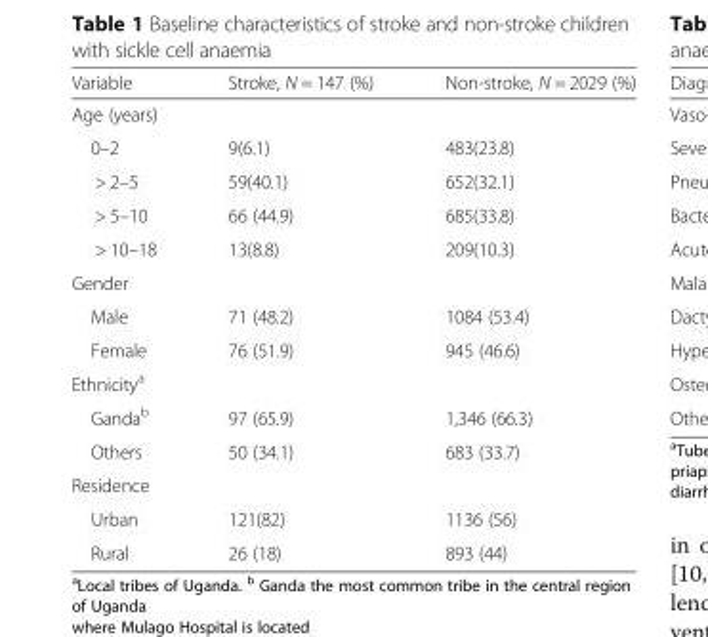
<table><thead><tr><td>Variable</td><td>Stroke, N = 147 (%)</td><td>Non-stroke, N = 2029 (%)</td></tr></thead><tbody><tr><td colspan="3">Age (years)</td></tr><tr><td>0–2</td><td>9(6.1)</td><td>483(23.8)</td></tr><tr><td>&gt; 2–5</td><td>59(40.1)</td><td>652(32.1)</td></tr><tr><td>&gt; 5–10</td><td>66 (44.9)</td><td>685(33.8)</td></tr><tr><td>&gt; 10–18</td><td>13(8.8)</td><td>209(10.3)</td></tr><tr><td colspan="3">Gender</td></tr><tr><td>Male</td><td>71 (48.2)</td><td>1084 (53.4)</td></tr><tr><td>Female</td><td>76 (51.9)</td><td>945 (46.6)</td></tr><tr><td colspan="3">Ethnicity<sup>a</sup></td></tr><tr><td>Ganda<sup>b</sup></td><td>97 (65.9)</td><td>1,346 (66.3)</td></tr><tr><td>Others</td><td>50 (34.1)</td><td>683 (33.7)</td></tr><tr><td colspan="3">Residence</td></tr><tr><td>Urban</td><td>121(82)</td><td>1136 (56)</td></tr><tr><td>Rural</td><td>26 (18)</td><td>893 (44)</td></tr></tbody></table>